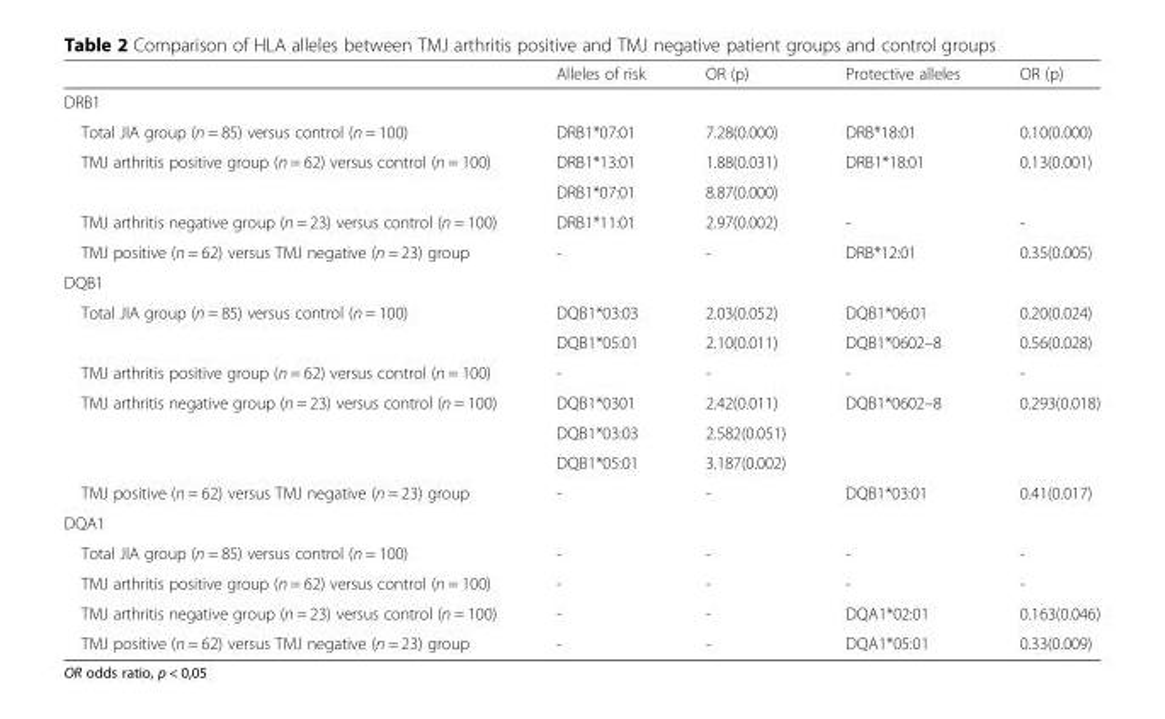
<table><thead><tr><td></td><td>Alleles of risk</td><td>OR (p)</td><td>Protective alleles</td><td>OR (p)</td></tr></thead><tbody><tr><td colspan="5">DRB1</td></tr><tr><td>Total JIA group (n = 85) versus control (n = 100)</td><td>DRB1*07:01</td><td>7.28(0.000)</td><td>DRB*18:01</td><td>0.10(0.000)</td></tr><tr><td rowspan="2">TMJ arthritis positive group (n = 62) versus control (n = 100)</td><td>DRB1*13:01</td><td>1.88(0.031)</td><td rowspan="2">DRB1*18:01</td><td rowspan="2">0.13(0.001)</td></tr><tr><td>DRB1*07:01</td><td>8.87(0.000)</td></tr><tr><td>TMJ arthritis negative group (n = 23) versus control (n = 100)</td><td>DRB1*11:01</td><td>2.97(0.002)</td><td>-</td><td>-</td></tr><tr><td>TMJ positive (n = 62) versus TMJ negative (n = 23) group</td><td>-</td><td>-</td><td>DRB*12:01</td><td>0.35(0.005)</td></tr><tr><td colspan="5">DQB1</td></tr><tr><td rowspan="2">Total JIA group (n = 85) versus control (n = 100)</td><td>DQB1*03:03</td><td>2.03(0.052)</td><td>DQB1*06:01</td><td>0.20(0.024)</td></tr><tr><td>DQB1*05:01</td><td>2.10(0.011)</td><td>DQB1*0602–8</td><td>0.56(0.028)</td></tr><tr><td>TMJ arthritis positive group (n = 62) versus control (n = 100)</td><td>-</td><td>-</td><td>-</td><td>-</td></tr><tr><td rowspan="3">TMJ arthritis negative group (n = 23) versus control (n = 100)</td><td>DQB1*0301</td><td>2.42(0.011)</td><td rowspan="3">DQB1*0602–8</td><td rowspan="3">0.293(0.018)</td></tr><tr><td>DQB1*03:03</td><td>2.582(0.051)</td></tr><tr><td>DQB1*05:01</td><td>3.187(0.002)</td></tr><tr><td>TMJ positive (n = 62) versus TMJ negative (n = 23) group</td><td>-</td><td>-</td><td>DQB1*03:01</td><td>0.41(0.017)</td></tr><tr><td colspan="5">DQA1</td></tr><tr><td>Total JIA group (n = 85) versus control (n = 100)</td><td>-</td><td>-</td><td>-</td><td>-</td></tr><tr><td>TMJ arthritis positive group (n = 62) versus control (n = 100)</td><td>-</td><td>-</td><td>-</td><td>-</td></tr><tr><td>TMJ arthritis negative group (n = 23) versus control (n = 100)</td><td>-</td><td>-</td><td>DQA1*02:01</td><td>0.163(0.046)</td></tr><tr><td>TMJ positive (n = 62) versus TMJ negative (n = 23) group</td><td>-</td><td>-</td><td>DQA1*05:01</td><td>0.33(0.009)</td></tr></tbody></table>